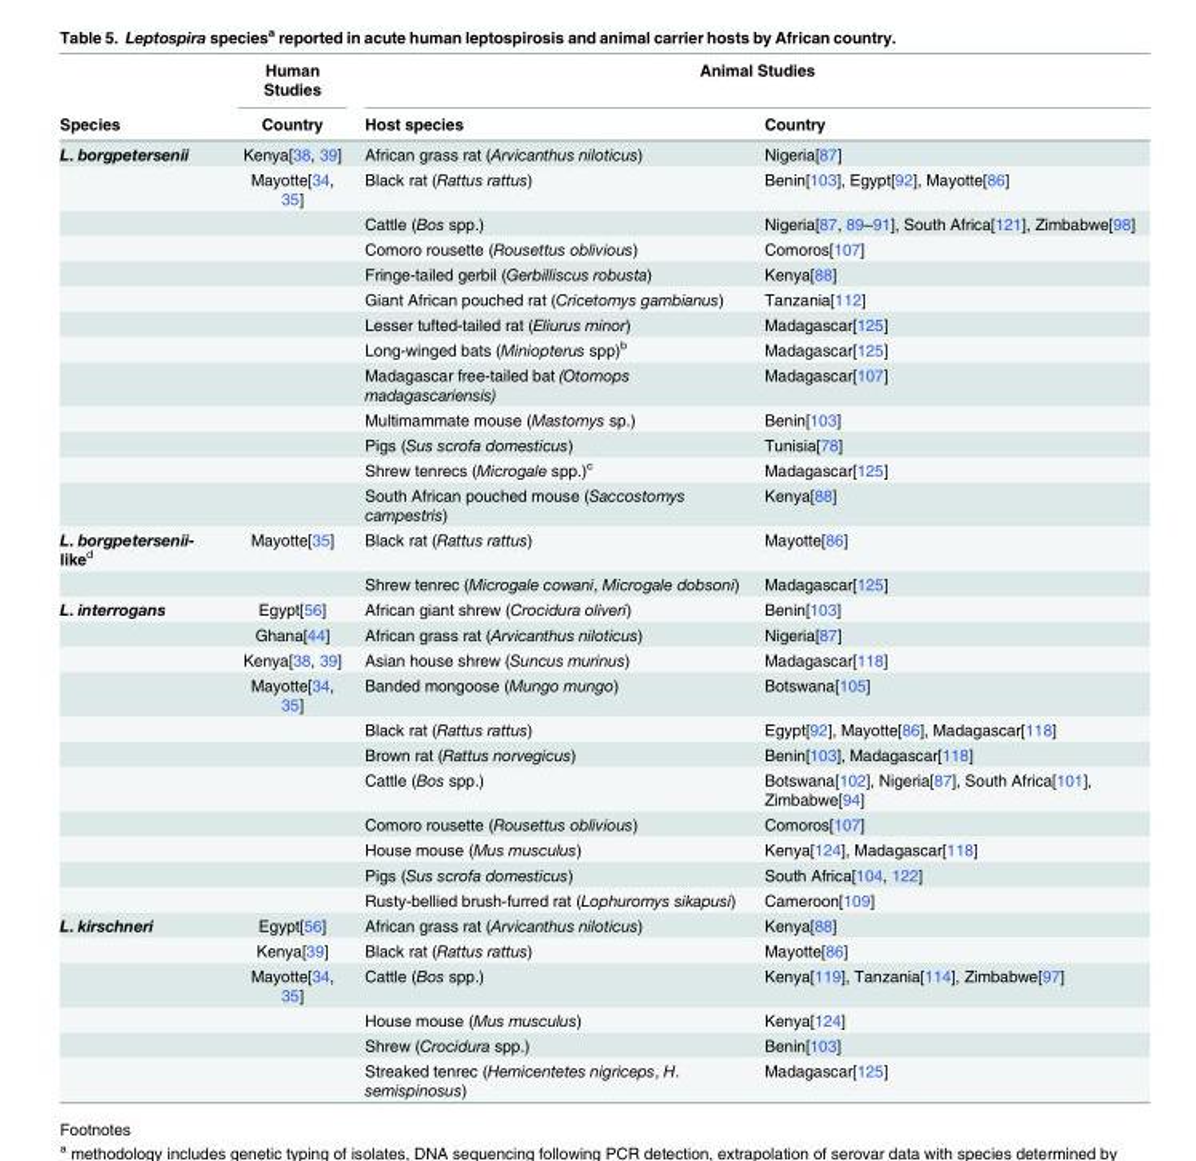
<table><thead><tr><td rowspan="2">Species</td><td rowspan="2">Human Studies Country</td><td colspan="2">Animal Studies</td></tr><tr><td>Host species</td><td>Country</td></tr></thead><tbody><tr><td rowspan="13">L. borgpetersenii</td><td>Kenya[38, 39]</td><td>African grass rat (Arvicanthus niloticus)</td><td>Nigeria[87]</td></tr><tr><td>Mayotte[34, 35]</td><td>Black rat (Rattus rattus)</td><td>Benin[103], Egypt[92], Mayotte[86]</td></tr><tr><td></td><td>Cattle (Bos spp.)</td><td>Nigeria[87, 89–91], South Africa[121], Zimbabwe[98]</td></tr><tr><td></td><td>Comoro rousette (Rousettus oblivious)</td><td>Comoros[107]</td></tr><tr><td></td><td>Fringe-tailed gerbil (Gerbilliscus robusta)</td><td>Kenya[88]</td></tr><tr><td></td><td>Giant African pouched rat (Cricetomys gambianus)</td><td>Tanzania[112]</td></tr><tr><td></td><td>Lesser tufted-tailed rat (Eliurus minor)</td><td>Madagascar[125]</td></tr><tr><td></td><td>Long-winged bats (Miniopterus spp)<sup>b</sup></td><td>Madagascar[125]</td></tr><tr><td></td><td>Madagascar free-tailed bat (Otomops madagascariensis)</td><td>Madagascar[107]</td></tr><tr><td></td><td>Multimammate mouse (Mastomys sp.)</td><td>Benin[103]</td></tr><tr><td></td><td>Pigs (Sus scrofa domesticus)</td><td>Tunisia[78]</td></tr><tr><td></td><td>Shrew tenrecs (Microgale spp.)<sup>c</sup></td><td>Madagascar[125]</td></tr><tr><td></td><td>South African pouched mouse (Saccostomys campestris)</td><td>Kenya[88]</td></tr><tr><td rowspan="2">L. borgpetersenii- like<sup>d</sup></td><td>Mayotte[35]</td><td>Black rat (Rattus rattus)</td><td>Mayotte[86]</td></tr><tr><td></td><td>Shrew tenrec (Microgale cowani, Microgale dobsoni)</td><td>Madagascar[125]</td></tr><tr><td rowspan="11">L. interrogans</td><td>Egypt[56]</td><td>African giant shrew (Crocidura oliveri)</td><td>Benin[103]</td></tr><tr><td>Ghana[44]</td><td>African grass rat (Arvicanthus niloticus)</td><td>Nigeria[87]</td></tr><tr><td>Kenya[38, 39]</td><td>Asian house shrew (Suncus murinus)</td><td>Madagascar[118]</td></tr><tr><td>Mayotte[34, 35]</td><td>Banded mongoose (Mungo mungo)</td><td>Botswana[105]</td></tr><tr><td></td><td>Black rat (Rattus rattus)</td><td>Egypt[92], Mayotte[86], Madagascar[118]</td></tr><tr><td></td><td>Brown rat (Rattus norvegicus)</td><td>Benin[103], Madagascar[118]</td></tr><tr><td></td><td>Cattle (Bos spp.)</td><td>Botswana[102], Nigeria[87], South Africa[101], Zimbabwe[94]</td></tr><tr><td></td><td>Comoro rousette (Rousettus oblivious)</td><td>Comoros[107]</td></tr><tr><td></td><td>House mouse (Mus musculus)</td><td>Kenya[124], Madagascar[118]</td></tr><tr><td></td><td>Pigs (Sus scrofa domesticus)</td><td>South Africa[104, 122]</td></tr><tr><td></td><td>Rusty-bellied brush-furred rat (Lophuromys sikapusi)</td><td>Cameroon[109]</td></tr><tr><td rowspan="6">L. kirschneri</td><td>Egypt[56]</td><td>African grass rat (Arvicanthus niloticus)</td><td>Kenya[88]</td></tr><tr><td>Kenya[39]</td><td>Black rat (Rattus rattus)</td><td>Mayotte[86]</td></tr><tr><td>Mayotte[34, 35]</td><td>Cattle (Bos spp.)</td><td>Kenya[119], Tanzania[114], Zimbabwe[97]</td></tr><tr><td></td><td>House mouse (Mus musculus)</td><td>Kenya[124]</td></tr><tr><td></td><td>Shrew (Crocidura spp.)</td><td>Benin[103]</td></tr><tr><td></td><td>Streaked tenrec (Hemicentetes nigriceps, H. semispinosus)</td><td>Madagascar[125]</td></tr></tbody></table>